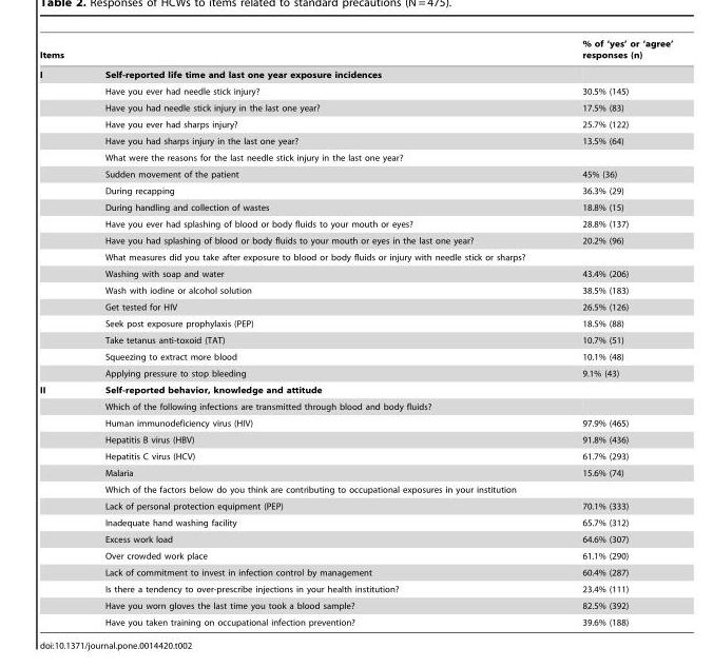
<table><thead><tr><td colspan="2">Items</td><td rowspan="2">% of ‘yes’ or ‘agree’ responses (n)</td></tr><tr><td>I</td><td>Self-reported life time and last one year exposure incidences</td></tr></thead><tbody><tr><td></td><td>Have you ever had needle stick injury?</td><td>30.5% (145)</td></tr><tr><td></td><td>Have you had needle stick injury in the last one year?</td><td>17.5% (83)</td></tr><tr><td></td><td>Have you ever had sharps injury?</td><td>25.7% (122)</td></tr><tr><td></td><td>Have you had sharps injury in the last one year?</td><td>13.5% (64)</td></tr><tr><td></td><td>What were the reasons for the last needle stick injury in the last one year?</td><td></td></tr><tr><td></td><td>Sudden movement of the patient</td><td>45% (36)</td></tr><tr><td></td><td>During recapping</td><td>36.3% (29)</td></tr><tr><td></td><td>During handling and collection of wastes</td><td>18.8% (15)</td></tr><tr><td></td><td>Have you ever had splashing of blood or body fluids to your mouth or eyes?</td><td>28.8% (137)</td></tr><tr><td></td><td>Have you had splashing of blood or body fluids to your mouth or eyes in the last one year?</td><td>20.2% (96)</td></tr><tr><td></td><td>What measures did you take after exposure to blood or body fluids or injury with needle stick or sharps?</td><td></td></tr><tr><td></td><td>Washing with soap and water</td><td>43.4% (206)</td></tr><tr><td></td><td>Wash with iodine or alcohol solution</td><td>38.5% (183)</td></tr><tr><td></td><td>Get tested for HIV</td><td>26.5% (126)</td></tr><tr><td></td><td>Seek post exposure prophylaxis (PEP)</td><td>18.5% (88)</td></tr><tr><td></td><td>Take tetanus anti-toxoid (TAT)</td><td>10.7% (51)</td></tr><tr><td></td><td>Squeezing to extract more blood</td><td>10.1% (48)</td></tr><tr><td></td><td>Applying pressure to stop bleeding</td><td>9.1% (43)</td></tr><tr><td rowspan="15">II</td><td>Self-reported behavior, knowledge and attitude</td><td></td></tr><tr><td>Which of the following infections are transmitted through blood and body fluids?</td><td></td></tr><tr><td>Human immunodeficiency virus (HIV)</td><td>97.9% (465)</td></tr><tr><td>Hepatitis B virus (HBV)</td><td>91.8% (436)</td></tr><tr><td>Hepatitis C virus (HCV)</td><td>61.7% (293)</td></tr><tr><td>Malaria</td><td>15.6% (74)</td></tr><tr><td>Which of the factors below do you think are contributing to occupational exposures in your institution</td><td></td></tr><tr><td>Lack of personal protection equipment (PEP)</td><td>70.1% (333)</td></tr><tr><td>Inadequate hand washing facility</td><td>65.7% (312)</td></tr><tr><td>Excess work load</td><td>64.6% (307)</td></tr><tr><td>Over crowded work place</td><td>61.1% (290)</td></tr><tr><td>Lack of commitment to invest in infection control by management</td><td>60.4% (287)</td></tr><tr><td>Is there a tendency to over-prescribe injections in your health institution?</td><td>23.4% (111)</td></tr><tr><td>Have you worn gloves the last time you took a blood sample?</td><td>82.5% (392)</td></tr><tr><td>Have you taken training on occupational infection prevention?</td><td>39.6% (188)</td></tr></tbody></table>